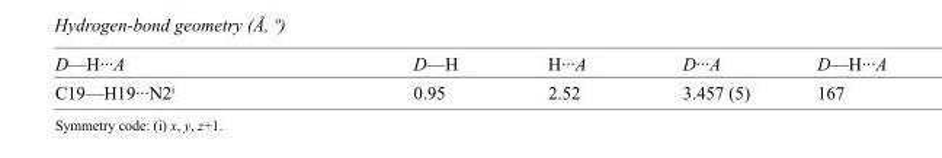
<table><tbody><tr><td>D—H···A</td><td>D—H</td><td>H···A</td><td>D···A</td><td>D—H···A</td></tr><tr><td>C19—H19···N2<sup>i</sup></td><td>0.95</td><td>2.52</td><td>3.457 (5)</td><td>167</td></tr></tbody></table>